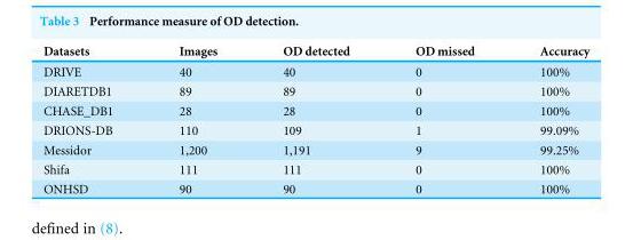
<table><thead><tr><td>Datasets</td><td>Images</td><td>OD detected</td><td>OD missed</td><td>Accuracy</td></tr></thead><tbody><tr><td>DRIVE</td><td>40</td><td>40</td><td>0</td><td>100%</td></tr><tr><td>DIARETDB1</td><td>89</td><td>89</td><td>0</td><td>100%</td></tr><tr><td>CHASE_DB1</td><td>28</td><td>28</td><td>0</td><td>100%</td></tr><tr><td>DRIONS-DB</td><td>110</td><td>109</td><td>1</td><td>99.09%</td></tr><tr><td>Messidor</td><td>1,200</td><td>1,191</td><td>9</td><td>99.25%</td></tr><tr><td>Shifa</td><td>111</td><td>111</td><td>0</td><td>100%</td></tr><tr><td>ONHSD</td><td>90</td><td>90</td><td>0</td><td>100%</td></tr></tbody></table>